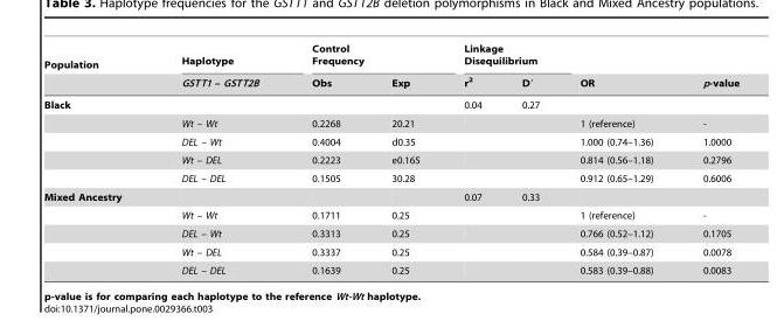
<table><thead><tr><td rowspan="2">Population</td><td rowspan="2">Haplotype GSTT1 – GSTT2B</td><td colspan="2">Control Frequency</td><td colspan="2">Linkage Disequilibrium</td><td rowspan="2">OR</td><td rowspan="2">p-value</td></tr><tr><td>Obs</td><td>Exp</td><td>r<sup>2</sup></td><td>D′</td></tr></thead><tbody><tr><td rowspan="5">Black</td><td></td><td></td><td></td><td>0.04</td><td>0.27</td><td></td><td></td></tr><tr><td>Wt – Wt</td><td>0.2268</td><td>20.21</td><td></td><td></td><td>1 (reference)</td><td>-</td></tr><tr><td>DEL – Wt</td><td>0.4004</td><td>d0.35</td><td></td><td></td><td>1.000 (0.74–1.36)</td><td>1.0000</td></tr><tr><td>Wt – DEL</td><td>0.2223</td><td>e0.165</td><td></td><td></td><td>0.814 (0.56–1.18)</td><td>0.2796</td></tr><tr><td>DEL – DEL</td><td>0.1505</td><td>30.28</td><td></td><td></td><td>0.912 (0.65–1.29)</td><td>0.6006</td></tr><tr><td rowspan="5">Mixed Ancestry</td><td></td><td></td><td></td><td>0.07</td><td>0.33</td><td></td><td></td></tr><tr><td>Wt – Wt</td><td>0.1711</td><td>0.25</td><td></td><td></td><td>1 (reference)</td><td>-</td></tr><tr><td>DEL – Wt</td><td>0.3313</td><td>0.25</td><td></td><td></td><td>0.766 (0.52–1.12)</td><td>0.1705</td></tr><tr><td>Wt – DEL</td><td>0.3337</td><td>0.25</td><td></td><td></td><td>0.584 (0.39–0.87)</td><td>0.0078</td></tr><tr><td>DEL – DEL</td><td>0.1639</td><td>0.25</td><td></td><td></td><td>0.583 (0.39–0.88)</td><td>0.0083</td></tr></tbody></table>